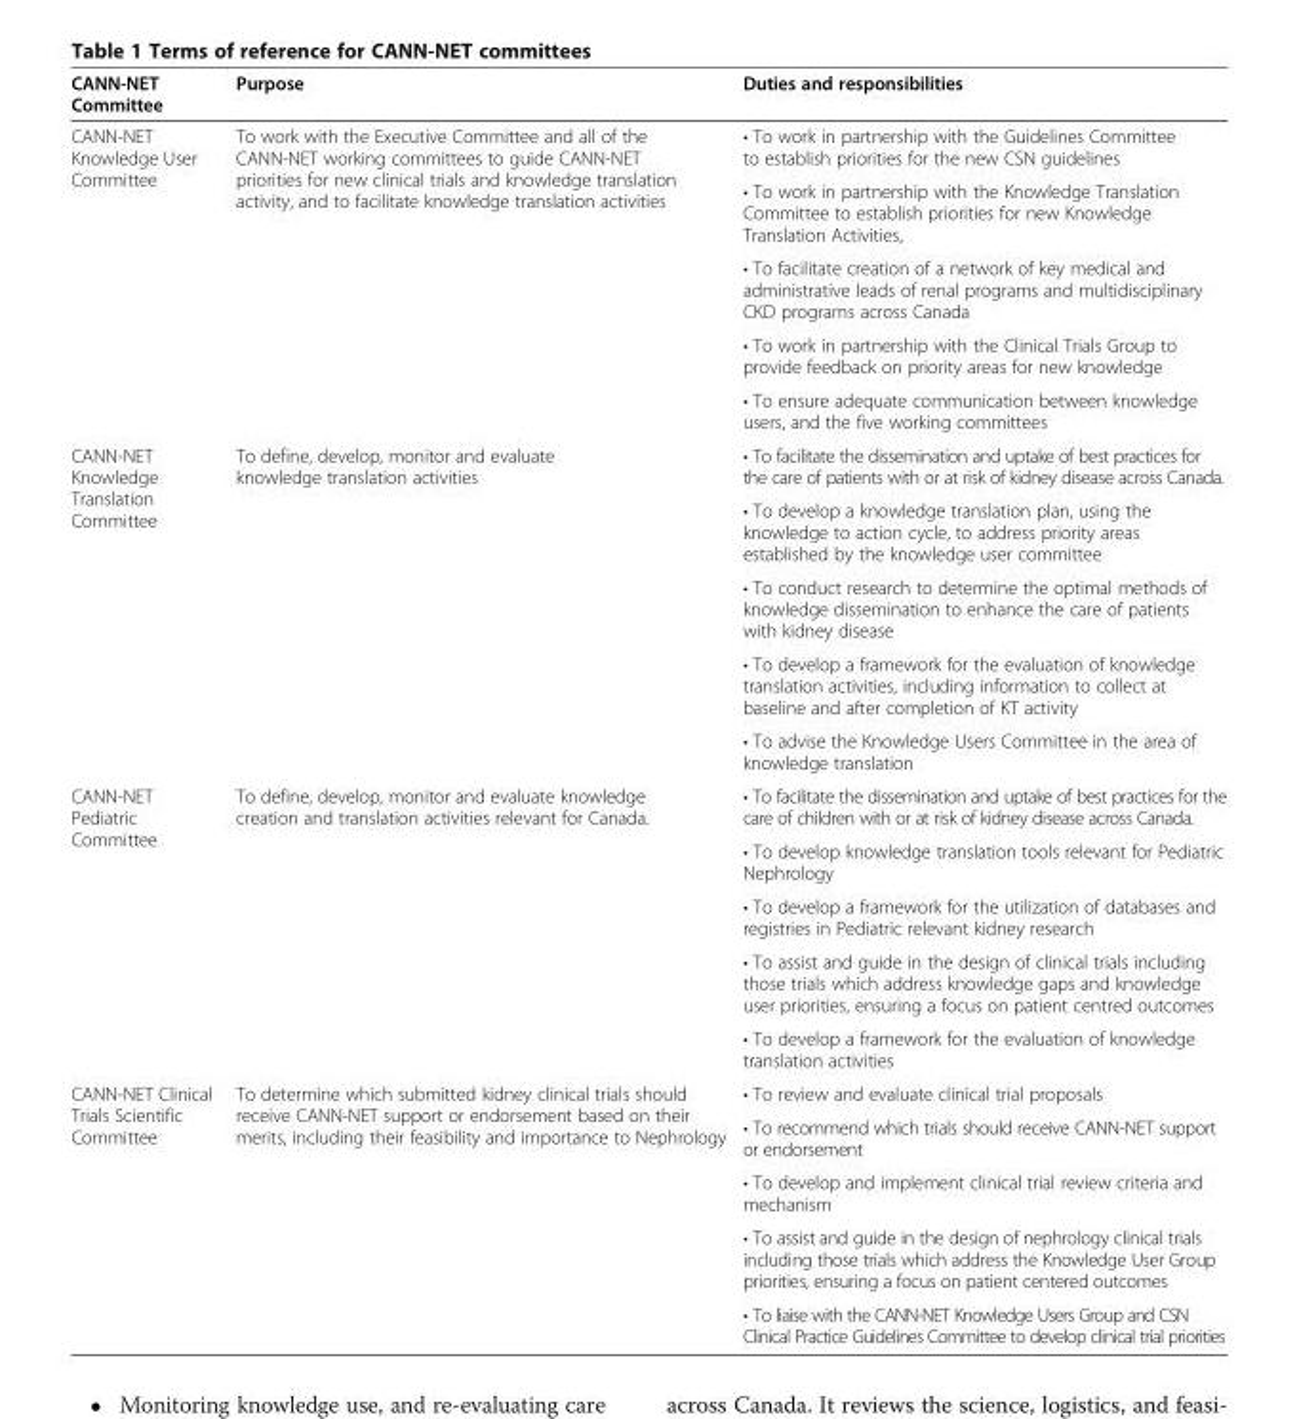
<table><thead><tr><td>CANN-NET Committee</td><td>Purpose</td><td>Duties and responsibilities</td></tr></thead><tbody><tr><td rowspan="5">CANN-NET Knowledge User Committee</td><td rowspan="5">To work with the Executive Committee and all of the CANN-NET working committees to guide CANN-NET priorities for new clinical trials and knowledge translation activity, and to facilitate knowledge translation activities</td><td>• To work in partnership with the Guidelines Committee to establish priorities for the new CSN guidelines</td></tr><tr><td>• To work in partnership with the Knowledge Translation Committee to establish priorities for new Knowledge Translation Activities,</td></tr><tr><td>• To facilitate creation of a network of key medical and administrative leads of renal programs and multidisciplinary CKD programs across Canada</td></tr><tr><td>• To work in partnership with the Clinical Trials Group to provide feedback on priority areas for new knowledge</td></tr><tr><td>• To ensure adequate communication between knowledge users, and the five working committees</td></tr><tr><td rowspan="5">CANN-NET Knowledge Translation Committee</td><td rowspan="5">To define, develop, monitor and evaluate knowledge translation activities</td><td>• To facilitate the dissemination and uptake of best practices for the care of patients with or at risk of kidney disease across Canada.</td></tr><tr><td>• To develop a knowledge translation plan, using the knowledge to action cycle, to address priority areas established by the knowledge user committee</td></tr><tr><td>• To conduct research to determine the optimal methods of knowledge dissemination to enhance the care of patients with kidney disease</td></tr><tr><td>• To develop a framework for the evaluation of knowledge translation activities, including information to collect at baseline and after completion of KT activity</td></tr><tr><td>• To advise the Knowledge Users Committee in the area of knowledge translation</td></tr><tr><td rowspan="5">CANN-NET Pediatric Committee</td><td rowspan="5">To define, develop, monitor and evaluate knowledge creation and translation activities relevant for Canada.</td><td>• To facilitate the dissemination and uptake of best practices for the care of children with or at risk of kidney disease across Canada.</td></tr><tr><td>• To develop knowledge translation tools relevant for Pediatric Nephrology</td></tr><tr><td>• To develop a framework for the utilization of databases and registries in Pediatric relevant kidney research</td></tr><tr><td>• To assist and guide in the design of clinical trials including those trials which address knowledge gaps and knowledge user priorities, ensuring a focus on patient centred outcomes</td></tr><tr><td>• To develop a framework for the evaluation of knowledge translation activities</td></tr><tr><td rowspan="5">CANN-NET Clinical Trials Scientific Committee</td><td rowspan="5">To determine which submitted kidney clinical trials should receive CANN-NET support or endorsement based on their merits, including their feasibility and importance to Nephrology</td><td>• To review and evaluate clinical trial proposals</td></tr><tr><td>• To recommend which trials should receive CANN-NET support or endorsement</td></tr><tr><td>• To develop and implement clinical trial review criteria and mechanism</td></tr><tr><td>• To assist and guide in the design of nephrology clinical trials including those trials which address the Knowledge User Group priorities, ensuring a focus on patient centered outcomes</td></tr><tr><td>• To liaise with the CANN-NET Knowledge Users Group and CSN Clinical Practice Guidelines Committee to develop clinical trial priorities</td></tr></tbody></table>